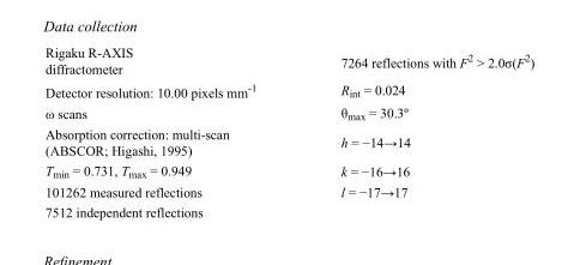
<table><tbody><tr><td>Rigaku R-AXIS diffractometer</td><td>7264 reflections with F<sup>2</sup> &gt; 2.0σ(F<sup>2</sup>)</td></tr><tr><td>Detector resolution: 10.00 pixels mm<sup>-1</sup></td><td>R<sub>int</sub> = 0.024</td></tr><tr><td>ω scans</td><td>θmax = 30.3º</td></tr><tr><td>Absorption correction: multi-scan (ABSCOR; Higashi, 1995)</td><td>h = −14→14</td></tr><tr><td>T<sub>min</sub> = 0.731, T<sub>max</sub> = 0.949</td><td>k = −16→16</td></tr><tr><td>101262 measured reflections</td><td>l = −17→17</td></tr><tr><td>7512 independent reflections</td><td></td></tr></tbody></table>